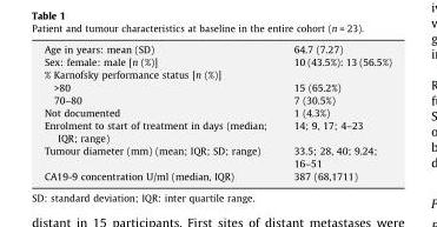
<table><tbody><tr><td>Age in years: mean (SD)</td><td>64.7 (7.27)</td></tr><tr><td>Sex: female: male [n (%)]</td><td>10 (43.5%): 13 (56.5%)</td></tr><tr><td colspan="2">% Karnofsky performance status [n (%)]</td></tr><tr><td>&gt;80</td><td>15 (65.2%)</td></tr><tr><td>70–80</td><td>7 (30.5%)</td></tr><tr><td>Not documented</td><td>1 (4.3%)</td></tr><tr><td>Enrolment to start of treatment in days (median; IQR; range)</td><td>14; 9, 17; 4–23</td></tr><tr><td>Tumour diameter (mm) (mean; IQR; SD; range)</td><td>33.5; 28, 40; 9.24; 16–51</td></tr><tr><td>CA19-9 concentration U/ml (median, IQR)</td><td>387 (68,1711)</td></tr></tbody></table>